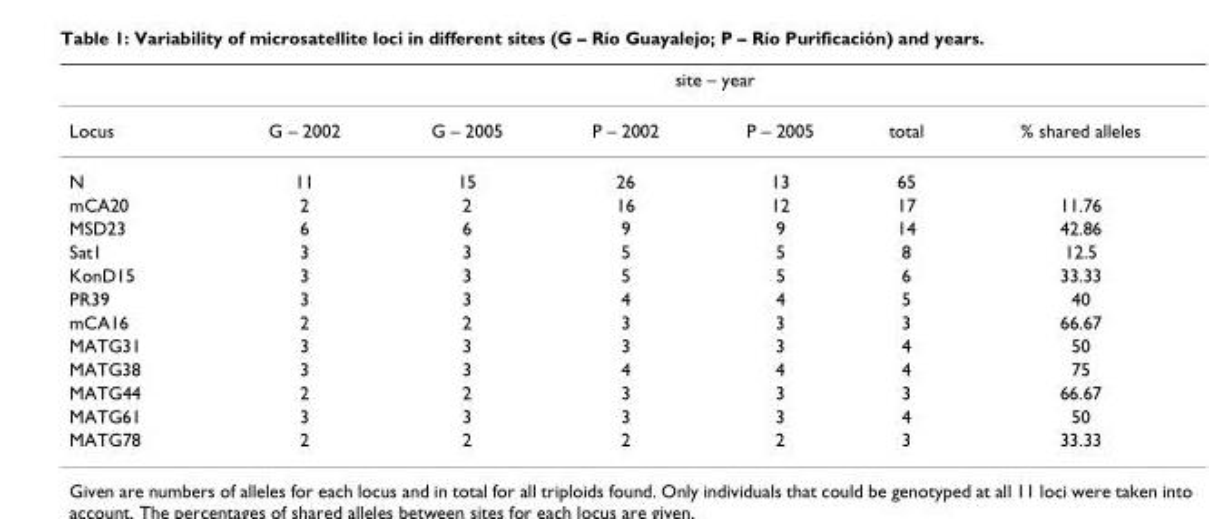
<table><thead><tr><td rowspan="2">Locus</td><td colspan="6">site – year</td></tr><tr><td>G – 2002</td><td>G – 2005</td><td>P – 2002</td><td>P – 2005</td><td>total</td><td>% shared alleles</td></tr></thead><tbody><tr><td>N</td><td>11</td><td>15</td><td>26</td><td>13</td><td>65</td><td></td></tr><tr><td>mCA20</td><td>2</td><td>2</td><td>16</td><td>12</td><td>17</td><td>11.76</td></tr><tr><td>MSD23</td><td>6</td><td>6</td><td>9</td><td>9</td><td>14</td><td>42.86</td></tr><tr><td>Sat1</td><td>3</td><td>3</td><td>5</td><td>5</td><td>8</td><td>12.5</td></tr><tr><td>KonD15</td><td>3</td><td>3</td><td>5</td><td>5</td><td>6</td><td>33.33</td></tr><tr><td>PR39</td><td>3</td><td>3</td><td>4</td><td>4</td><td>5</td><td>40</td></tr><tr><td>mCA16</td><td>2</td><td>2</td><td>3</td><td>3</td><td>3</td><td>66.67</td></tr><tr><td>MATG31</td><td>3</td><td>3</td><td>3</td><td>3</td><td>4</td><td>50</td></tr><tr><td>MATG38</td><td>3</td><td>3</td><td>4</td><td>4</td><td>4</td><td>75</td></tr><tr><td>MATG44</td><td>2</td><td>2</td><td>3</td><td>3</td><td>3</td><td>66.67</td></tr><tr><td>MATG61</td><td>3</td><td>3</td><td>3</td><td>3</td><td>4</td><td>50</td></tr><tr><td>MATG78</td><td>2</td><td>2</td><td>2</td><td>2</td><td>3</td><td>33.33</td></tr></tbody></table>